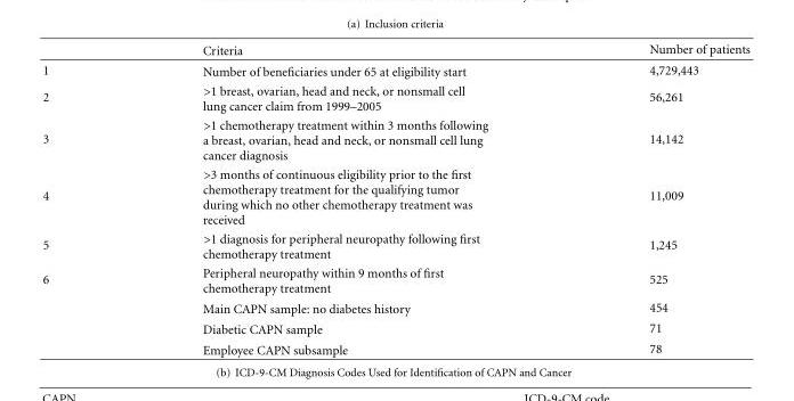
<table><thead><tr><td></td><td>Criteria</td><td>Number of patients</td></tr></thead><tbody><tr><td>1</td><td>Number of beneficiaries under 65 at eligibility start</td><td>4,729,443</td></tr><tr><td>2</td><td>&gt;1 breast, ovarian, head and neck, or nonsmall cell lung cancer claim from 1999–2005</td><td>56,261</td></tr><tr><td>3</td><td>&gt;1 chemotherapy treatment within 3 months following a breast, ovarian, head and neck, or nonsmall cell lung cancer diagnosis</td><td>14,142</td></tr><tr><td>4</td><td>&gt;3 months of continuous eligibility prior to the first chemotherapy treatment for the qualifying tumor during which no other chemotherapy treatment was received</td><td>11,009</td></tr><tr><td>5</td><td>&gt;1 diagnosis for peripheral neuropathy following first chemotherapy treatment</td><td>1,245</td></tr><tr><td rowspan="4">6</td><td>Peripheral neuropathy within 9 months of first chemotherapy treatment</td><td>525</td></tr><tr><td>Main CAPN sample: no diabetes history</td><td>454</td></tr><tr><td>Diabetic CAPN sample</td><td>71</td></tr><tr><td>Employee CAPN subsample</td><td>78</td></tr></tbody></table>